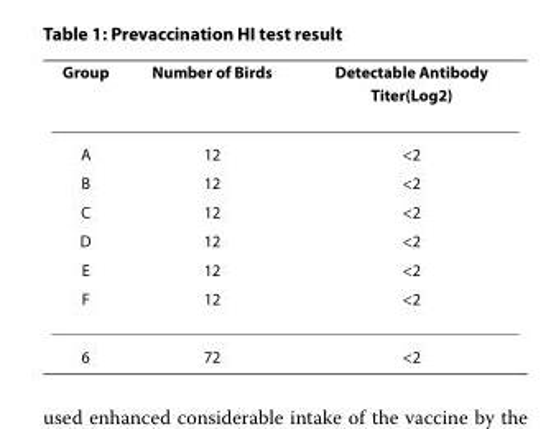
<table><thead><tr><td>Group</td><td>Number of Birds</td><td>Detectable Antibody Titer(Log<sub>2</sub>)</td></tr></thead><tbody><tr><td>A</td><td>12</td><td>&lt;2</td></tr><tr><td>B</td><td>12</td><td>&lt;2</td></tr><tr><td>C</td><td>12</td><td>&lt;2</td></tr><tr><td>D</td><td>12</td><td>&lt;2</td></tr><tr><td>E</td><td>12</td><td>&lt;2</td></tr><tr><td>F</td><td>12</td><td>&lt;2</td></tr><tr><td>6</td><td>72</td><td>&lt;2</td></tr></tbody></table>